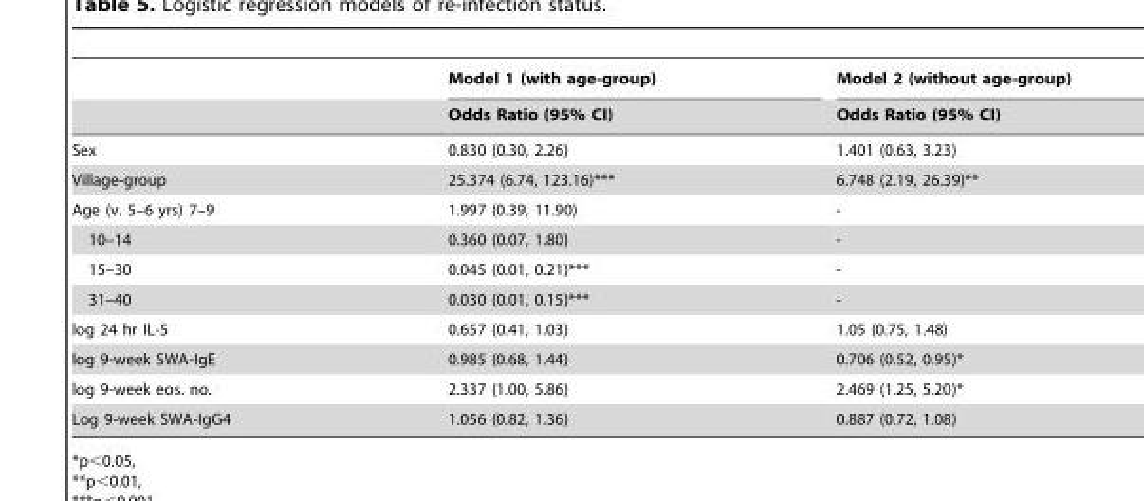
<table><thead><tr><td rowspan="2"></td><td rowspan="2">Model 1 (with age-group) Odds Ratio (95% CI)</td><td rowspan="2">Model 2 (without age-group) Odds Ratio (95% CI)</td></tr><tr></tr></thead><tbody><tr><td>Sex</td><td>0.830 (0.30, 2.26)</td><td>1.401 (0.63, 3.23)</td></tr><tr><td>Village-group</td><td>25.374 (6.74, 123.16)***</td><td>6.748 (2.19, 26.39)**</td></tr><tr><td>Age (v. 5–6 yrs) 7–9</td><td>1.997 (0.39, 11.90)</td><td>-</td></tr><tr><td>10–14</td><td>0.360 (0.07, 1.80)</td><td>-</td></tr><tr><td>15–30</td><td>0.045 (0.01, 0.21)***</td><td>-</td></tr><tr><td>31–40</td><td>0.030 (0.01, 0.15)***</td><td>-</td></tr><tr><td>log 24 hr IL-5</td><td>0.657 (0.41, 1.03)</td><td>1.05 (0.75, 1.48)</td></tr><tr><td>log 9-week SWA-IgE</td><td>0.985 (0.68, 1.44)</td><td>0.706 (0.52, 0.95)*</td></tr><tr><td>log 9-week eos. no.</td><td>2.337 (1.00, 5.86)</td><td>2.469 (1.25, 5.20)*</td></tr><tr><td>Log 9-week SWA-IgG4</td><td>1.056 (0.82, 1.36)</td><td>0.887 (0.72, 1.08)</td></tr></tbody></table>